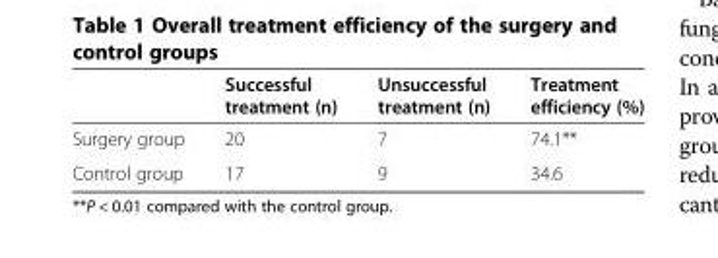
<table><thead><tr><td></td><td>Successful treatment (n)</td><td>Unsuccessful treatment (n)</td><td>Treatment efficiency (%)</td></tr></thead><tbody><tr><td>Surgery group</td><td>20</td><td>7</td><td>74.1**</td></tr><tr><td>Control group</td><td>17</td><td>9</td><td>34.6</td></tr></tbody></table>